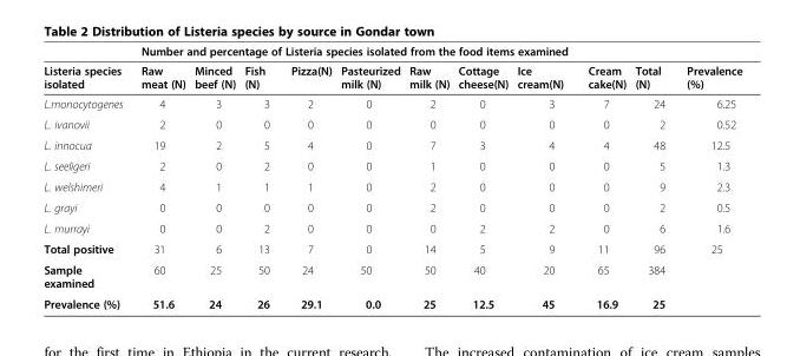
<table><thead><tr><td rowspan="2">Listeria species isolated</td><td colspan="11">Number and percentage of Listeria species isolated from the food items examined</td></tr><tr><td>Raw meat (N)</td><td>Minced beef (N)</td><td>Fish (N)</td><td>Pizza(N)</td><td>Pasteurized milk (N)</td><td>Raw milk (N)</td><td>Cottage cheese(N)</td><td>Ice cream(N)</td><td>Cream cake(N)</td><td>Total (N)</td><td>Prevalence (%)</td></tr></thead><tbody><tr><td>L.monocytogenes</td><td>4</td><td>3</td><td>3</td><td>2</td><td>0</td><td>2</td><td>0</td><td>3</td><td>7</td><td>24</td><td>6.25</td></tr><tr><td>L. ivanovii</td><td>2</td><td>0</td><td>0</td><td>0</td><td>0</td><td>0</td><td>0</td><td>0</td><td>0</td><td>2</td><td>0.52</td></tr><tr><td>L. innocua</td><td>19</td><td>2</td><td>5</td><td>4</td><td>0</td><td>7</td><td>3</td><td>4</td><td>4</td><td>48</td><td>12.5</td></tr><tr><td>L. seeligeri</td><td>2</td><td>0</td><td>2</td><td>0</td><td>0</td><td>1</td><td>0</td><td>0</td><td>0</td><td>5</td><td>1.3</td></tr><tr><td>L. welshimeri</td><td>4</td><td>1</td><td>1</td><td>1</td><td>0</td><td>2</td><td>0</td><td>0</td><td>0</td><td>9</td><td>2.3</td></tr><tr><td>L. grayi</td><td>0</td><td>0</td><td>0</td><td>0</td><td>0</td><td>2</td><td>0</td><td>0</td><td>0</td><td>2</td><td>0.5</td></tr><tr><td>L. murrayi</td><td>0</td><td>0</td><td>2</td><td>0</td><td>0</td><td>0</td><td>2</td><td>2</td><td>0</td><td>6</td><td>1.6</td></tr><tr><td>Total positive</td><td>31</td><td>6</td><td>13</td><td>7</td><td>0</td><td>14</td><td>5</td><td>9</td><td>11</td><td>96</td><td>25</td></tr><tr><td>Sample examined</td><td>60</td><td>25</td><td>50</td><td>24</td><td>50</td><td>50</td><td>40</td><td>20</td><td>65</td><td>384</td><td></td></tr><tr><td>Prevalence (%)</td><td>51.6</td><td>24</td><td>26</td><td>29.1</td><td>0.0</td><td>25</td><td>12.5</td><td>45</td><td>16.9</td><td>25</td><td></td></tr></tbody></table>